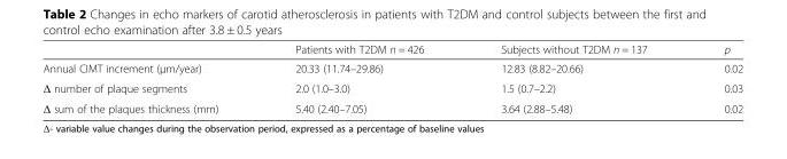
<table><thead><tr><td></td><td>Patients with T2DM n = 426</td><td>Subjects without T2DM n = 137</td><td>p</td></tr></thead><tbody><tr><td>Annual CIMT increment (μm/year)</td><td>20.33 (11.74–29.86)</td><td>12.83 (8.82–20.66)</td><td>0.02</td></tr><tr><td>Δ number of plaque segments</td><td>2.0 (1.0–3.0)</td><td>1.5 (0.7–2.2)</td><td>0.03</td></tr><tr><td>Δ sum of the plaques thickness (mm)</td><td>5.40 (2.40–7.05)</td><td>3.64 (2.88–5.48)</td><td>0.02</td></tr></tbody></table>